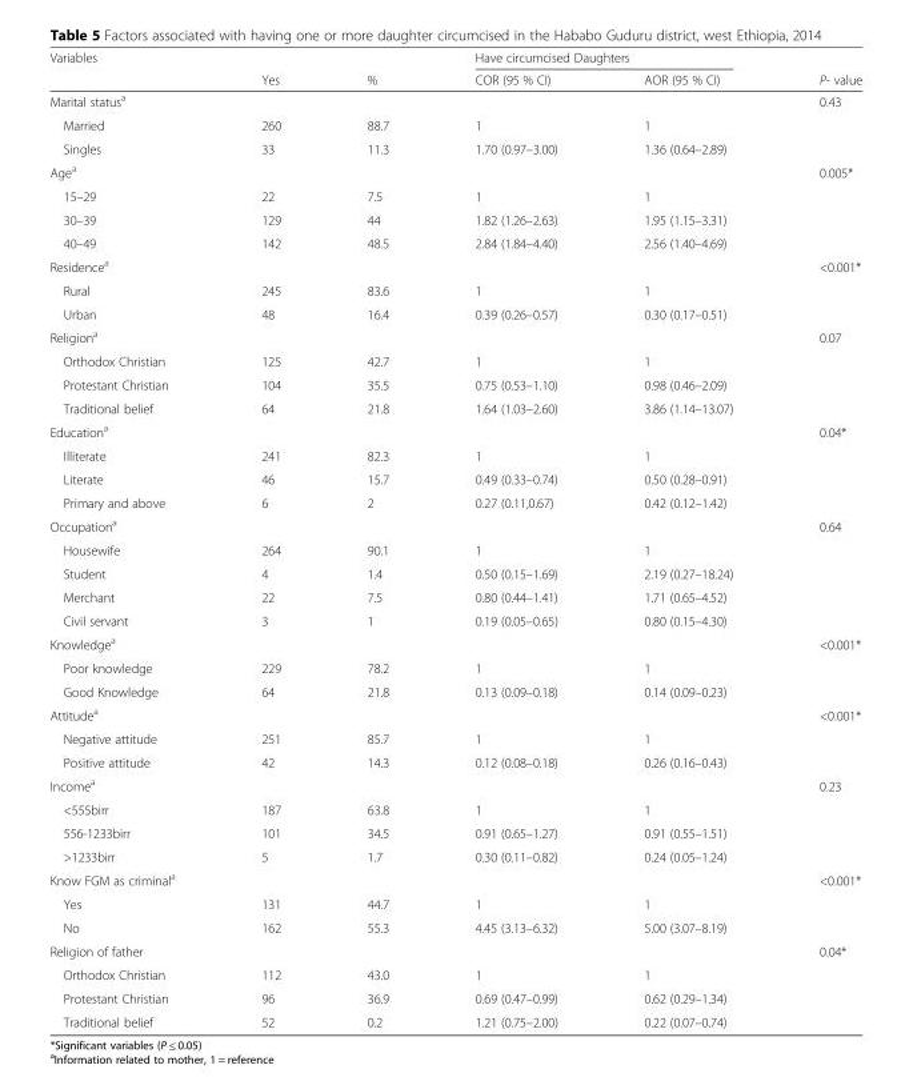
<table><thead><tr><td rowspan="2">Variables</td><td rowspan="2">Yes</td><td rowspan="2">%</td><td colspan="2">Have circumcised Daughters</td><td rowspan="2">P- value</td></tr><tr><td>COR (95 % CI)</td><td>AOR (95 % CI)</td></tr></thead><tbody><tr><td>Marital status<sup>a</sup></td><td></td><td></td><td></td><td></td><td>0.43</td></tr><tr><td>Married</td><td>260</td><td>88.7</td><td>1</td><td>1</td><td></td></tr><tr><td>Singles</td><td>33</td><td>11.3</td><td>1.70 (0.97–3.00)</td><td>1.36 (0.64–2.89)</td><td></td></tr><tr><td>Age<sup>a</sup></td><td></td><td></td><td></td><td></td><td>0.005*</td></tr><tr><td>15–29</td><td>22</td><td>7.5</td><td>1</td><td>1</td><td></td></tr><tr><td>30–39</td><td>129</td><td>44</td><td>1.82 (1.26–2.63)</td><td>1.95 (1.15–3.31)</td><td></td></tr><tr><td>40–49</td><td>142</td><td>48.5</td><td>2.84 (1.84–4.40)</td><td>2.56 (1.40–4.69)</td><td></td></tr><tr><td>Residence<sup>a</sup></td><td></td><td></td><td></td><td></td><td>&lt;0.001*</td></tr><tr><td>Rural</td><td>245</td><td>83.6</td><td>1</td><td>1</td><td></td></tr><tr><td>Urban</td><td>48</td><td>16.4</td><td>0.39 (0.26–0.57)</td><td>0.30 (0.17–0.51)</td><td></td></tr><tr><td>Religion<sup>a</sup></td><td></td><td></td><td></td><td></td><td>0.07</td></tr><tr><td>Orthodox Christian</td><td>125</td><td>42.7</td><td>1</td><td>1</td><td></td></tr><tr><td>Protestant Christian</td><td>104</td><td>35.5</td><td>0.75 (0.53–1.10)</td><td>0.98 (0.46–2.09)</td><td></td></tr><tr><td>Traditional belief</td><td>64</td><td>21.8</td><td>1.64 (1.03–2.60)</td><td>3.86 (1.14–13.07)</td><td></td></tr><tr><td>Education<sup>a</sup></td><td></td><td></td><td></td><td></td><td>0.04*</td></tr><tr><td>Illiterate</td><td>241</td><td>82.3</td><td>1</td><td>1</td><td></td></tr><tr><td>Literate</td><td>46</td><td>15.7</td><td>0.49 (0.33–0.74)</td><td>0.50 (0.28–0.91)</td><td></td></tr><tr><td>Primary and above</td><td>6</td><td>2</td><td>0.27 (0.11,0.67)</td><td>0.42 (0.12–1.42)</td><td></td></tr><tr><td>Occupation<sup>a</sup></td><td></td><td></td><td></td><td></td><td>0.64</td></tr><tr><td>Housewife</td><td>264</td><td>90.1</td><td>1</td><td>1</td><td></td></tr><tr><td>Student</td><td>4</td><td>1.4</td><td>0.50 (0.15–1.69)</td><td>2.19 (0.27–18.24)</td><td></td></tr><tr><td>Merchant</td><td>22</td><td>7.5</td><td>0.80 (0.44–1.41)</td><td>1.71 (0.65–4.52)</td><td></td></tr><tr><td>Civil servant</td><td>3</td><td>1</td><td>0.19 (0.05–0.65)</td><td>0.80 (0.15–4.30)</td><td></td></tr><tr><td>Knowledge<sup>a</sup></td><td></td><td></td><td></td><td></td><td>&lt;0.001*</td></tr><tr><td>Poor knowledge</td><td>229</td><td>78.2</td><td>1</td><td>1</td><td></td></tr><tr><td>Good Knowledge</td><td>64</td><td>21.8</td><td>0.13 (0.09–0.18)</td><td>0.14 (0.09–0.23)</td><td></td></tr><tr><td>Attitude<sup>a</sup></td><td></td><td></td><td></td><td></td><td>&lt;0.001*</td></tr><tr><td>Negative attitude</td><td>251</td><td>85.7</td><td>1</td><td>1</td><td></td></tr><tr><td>Positive attitude</td><td>42</td><td>14.3</td><td>0.12 (0.08–0.18)</td><td>0.26 (0.16–0.43)</td><td></td></tr><tr><td>Income<sup>a</sup></td><td></td><td></td><td></td><td></td><td>0.23</td></tr><tr><td>&lt;555birr</td><td>187</td><td>63.8</td><td>1</td><td>1</td><td></td></tr><tr><td>556-1233birr</td><td>101</td><td>34.5</td><td>0.91 (0.65–1.27)</td><td>0.91 (0.55–1.51)</td><td></td></tr><tr><td>&gt;1233birr</td><td>5</td><td>1.7</td><td>0.30 (0.11–0.82)</td><td>0.24 (0.05–1.24)</td><td></td></tr><tr><td>Know FGM as criminal<sup>a</sup></td><td></td><td></td><td></td><td></td><td>&lt;0.001*</td></tr><tr><td>Yes</td><td>131</td><td>44.7</td><td>1</td><td>1</td><td></td></tr><tr><td>No</td><td>162</td><td>55.3</td><td>4.45 (3.13–6.32)</td><td>5.00 (3.07–8.19)</td><td></td></tr><tr><td>Religion of father</td><td></td><td></td><td></td><td></td><td>0.04*</td></tr><tr><td>Orthodox Christian</td><td>112</td><td>43.0</td><td>1</td><td>1</td><td></td></tr><tr><td>Protestant Christian</td><td>96</td><td>36.9</td><td>0.69 (0.47–0.99)</td><td>0.62 (0.29–1.34)</td><td></td></tr><tr><td>Traditional belief</td><td>52</td><td>0.2</td><td>1.21 (0.75–2.00)</td><td>0.22 (0.07–0.74)</td><td></td></tr></tbody></table>